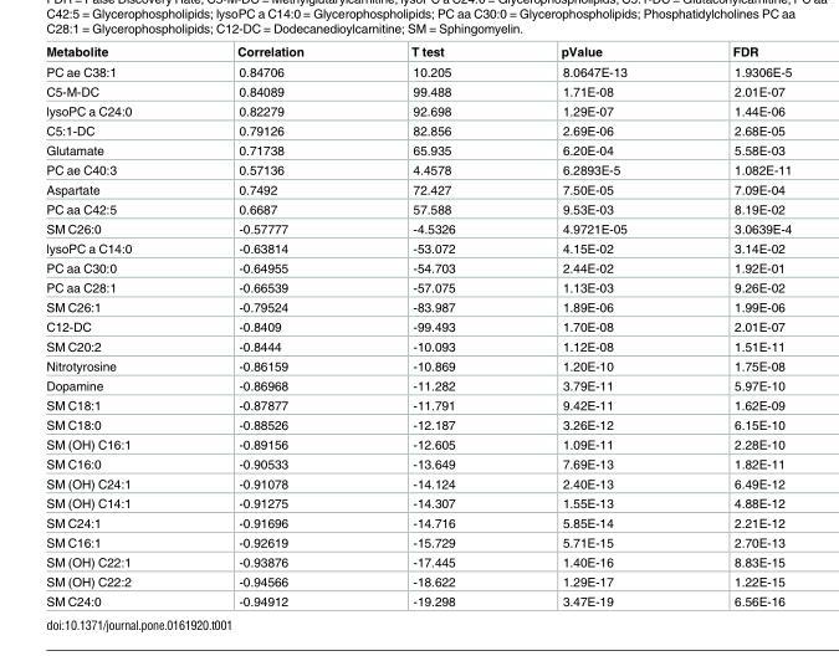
<table><thead><tr><td>Metabolite</td><td>Correlation</td><td>T test</td><td>pValue</td><td>FDR</td></tr></thead><tbody><tr><td>PC ae C38:1</td><td>0.84706</td><td>10.205</td><td>8.0647E-13</td><td>1.9306E-5</td></tr><tr><td>C5-M-DC</td><td>0.84089</td><td>99.488</td><td>1.71E-08</td><td>2.01E-07</td></tr><tr><td>lysoPC a C24:0</td><td>0.82279</td><td>92.698</td><td>1.29E-07</td><td>1.44E-06</td></tr><tr><td>C5:1-DC</td><td>0.79126</td><td>82.856</td><td>2.69E-06</td><td>2.68E-05</td></tr><tr><td>Glutamate</td><td>0.71738</td><td>65.935</td><td>6.20E-04</td><td>5.58E-03</td></tr><tr><td>PC ae C40:3</td><td>0.57136</td><td>4.4578</td><td>6.2893E-5</td><td>1.082E-11</td></tr><tr><td>Aspartate</td><td>0.7492</td><td>72.427</td><td>7.50E-05</td><td>7.09E-04</td></tr><tr><td>PC aa C42:5</td><td>0.6687</td><td>57.588</td><td>9.53E-03</td><td>8.19E-02</td></tr><tr><td>SM C26:0</td><td>-0.57777</td><td>-4.5326</td><td>4.9721E-05</td><td>3.0639E-4</td></tr><tr><td>lysoPC a C14:0</td><td>-0.63814</td><td>-53.072</td><td>4.15E-02</td><td>3.14E-02</td></tr><tr><td>PC aa C30:0</td><td>-0.64955</td><td>-54.703</td><td>2.44E-02</td><td>1.92E-01</td></tr><tr><td>PC aa C28:1</td><td>-0.66539</td><td>-57.075</td><td>1.13E-03</td><td>9.26E-02</td></tr><tr><td>SM C26:1</td><td>-0.79524</td><td>-83.987</td><td>1.89E-06</td><td>1.99E-06</td></tr><tr><td>C12-DC</td><td>-0.8409</td><td>-99.493</td><td>1.70E-08</td><td>2.01E-07</td></tr><tr><td>SM C20:2</td><td>-0.8444</td><td>-10.093</td><td>1.12E-08</td><td>1.51E-11</td></tr><tr><td>Nitrotyrosine</td><td>-0.86159</td><td>-10.869</td><td>1.20E-10</td><td>1.75E-08</td></tr><tr><td>Dopamine</td><td>-0.86968</td><td>-11.282</td><td>3.79E-11</td><td>5.97E-10</td></tr><tr><td>SM C18:1</td><td>-0.87877</td><td>-11.791</td><td>9.42E-11</td><td>1.62E-09</td></tr><tr><td>SM C18:0</td><td>-0.88526</td><td>-12.187</td><td>3.26E-12</td><td>6.15E-10</td></tr><tr><td>SM (OH) C16:1</td><td>-0.89156</td><td>-12.605</td><td>1.09E-11</td><td>2.28E-10</td></tr><tr><td>SM C16:0</td><td>-0.90533</td><td>-13.649</td><td>7.69E-13</td><td>1.82E-11</td></tr><tr><td>SM (OH) C24:1</td><td>-0.91078</td><td>-14.124</td><td>2.40E-13</td><td>6.49E-12</td></tr><tr><td>SM (OH) C14:1</td><td>-0.91275</td><td>-14.307</td><td>1.55E-13</td><td>4.88E-12</td></tr><tr><td>SM C24:1</td><td>-0.91696</td><td>-14.716</td><td>5.85E-14</td><td>2.21E-12</td></tr><tr><td>SM C16:1</td><td>-0.92619</td><td>-15.729</td><td>5.71E-15</td><td>2.70E-13</td></tr><tr><td>SM (OH) C22:1</td><td>-0.93876</td><td>-17.445</td><td>1.40E-16</td><td>8.83E-15</td></tr><tr><td>SM (OH) C22:2</td><td>-0.94566</td><td>-18.622</td><td>1.29E-17</td><td>1.22E-15</td></tr><tr><td>SM C24:0</td><td>-0.94912</td><td>-19.298</td><td>3.47E-19</td><td>6.56E-16</td></tr></tbody></table>